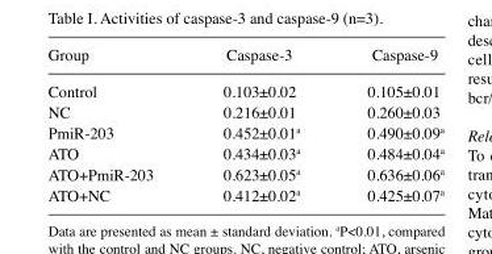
<table><thead><tr><td>Group</td><td>Caspase-3</td><td>Caspase-9</td></tr></thead><tbody><tr><td>Control</td><td>0.103±0.02</td><td>0.105±0.01</td></tr><tr><td>NC</td><td>0.216±0.01</td><td>0.260±0.03</td></tr><tr><td>PmiR-203</td><td>0.452±0.01<sup>a</sup></td><td>0.490±0.09<sup>a</sup></td></tr><tr><td>ATO</td><td>0.434±0.03<sup>a</sup></td><td>0.484±0.04<sup>a</sup></td></tr><tr><td>ATO+PmiR-203</td><td>0.623±0.05<sup>a</sup></td><td>0.636±0.06<sup>a</sup></td></tr><tr><td>ATO+NC</td><td>0.412±0.02<sup>a</sup></td><td>0.425±0.07<sup>a</sup></td></tr></tbody></table>